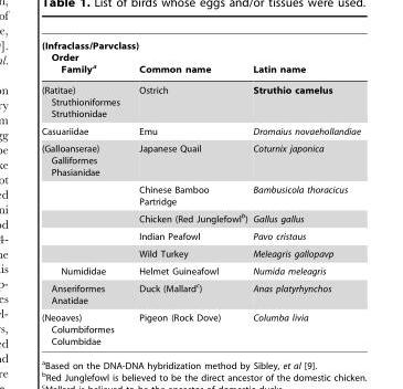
<table><thead><tr><td>(Infraclass/Parvclass) Order Family<sup>a</sup></td><td>Common name</td><td>Latin name</td></tr></thead><tbody><tr><td>(Ratitae) Struthioniformes Struthionidae</td><td>Ostrich</td><td>Struthio camelus</td></tr><tr><td>Casuariidae</td><td>Emu</td><td>Dromaius novaehollandiae</td></tr><tr><td rowspan="5">(Galloanserae) Galliformes Phasianidae</td><td>Japanese Quail</td><td>Coturnix japonica</td></tr><tr><td>Chinese Bamboo Partridge</td><td>Bambusicola thoracicus</td></tr><tr><td>Chicken (Red Junglefowl<sup>b</sup>)</td><td>Gallus gallus</td></tr><tr><td>Indian Peafowl</td><td>Pavo cristaus</td></tr><tr><td>Wild Turkey</td><td>Meleagris gallopavp</td></tr><tr><td>Numididae</td><td>Helmet Guineafowl</td><td>Numida meleagris</td></tr><tr><td>Anseriformes Anatidae</td><td>Duck (Mallard<sup>c</sup>)</td><td>Anas platyrhynchos</td></tr><tr><td>(Neoaves) Columbiformes Columbidae</td><td>Pigeon (Rock Dove)</td><td>Columba livia</td></tr></tbody></table>